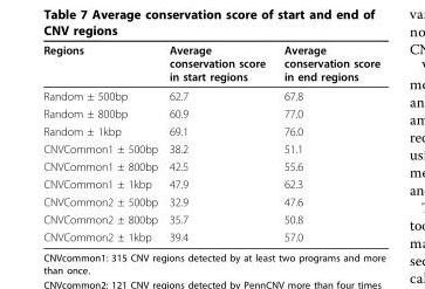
<table><thead><tr><td>Regions</td><td>Average conservation score in start regions</td><td>Average conservation score in end regions</td></tr></thead><tbody><tr><td>Random ± 500bp</td><td>62.7</td><td>67.8</td></tr><tr><td>Random ± 800bp</td><td>60.9</td><td>77.0</td></tr><tr><td>Random ± 1kbp</td><td>69.1</td><td>76.0</td></tr><tr><td>CNVCommon1 ± 500bp</td><td>38.2</td><td>51.1</td></tr><tr><td>CNVCommon1 ± 800bp</td><td>42.5</td><td>55.6</td></tr><tr><td>CNVCommon1 ± 1kbp</td><td>47.9</td><td>62.3</td></tr><tr><td>CNVCommon2 ± 500bp</td><td>32.9</td><td>47.6</td></tr><tr><td>CNVCommon2 ± 800bp</td><td>35.7</td><td>50.8</td></tr><tr><td>CNVCommon2 ± 1kbp</td><td>39.4</td><td>57.0</td></tr></tbody></table>